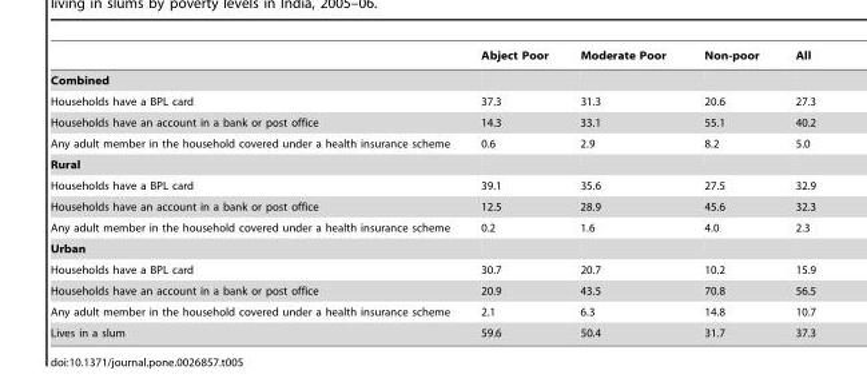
<table><thead><tr><td></td><td>Abject Poor</td><td>Moderate Poor</td><td>Non-poor</td><td>All</td></tr></thead><tbody><tr><td colspan="5">Combined</td></tr><tr><td>Households have a BPL card</td><td>37.3</td><td>31.3</td><td>20.6</td><td>27.3</td></tr><tr><td>Households have an account in a bank or post office</td><td>14.3</td><td>33.1</td><td>55.1</td><td>40.2</td></tr><tr><td>Any adult member in the household covered under a health insurance scheme</td><td>0.6</td><td>2.9</td><td>8.2</td><td>5.0</td></tr><tr><td colspan="5">Rural</td></tr><tr><td>Households have a BPL card</td><td>39.1</td><td>35.6</td><td>27.5</td><td>32.9</td></tr><tr><td>Households have an account in a bank or post office</td><td>12.5</td><td>28.9</td><td>45.6</td><td>32.3</td></tr><tr><td>Any adult member in the household covered under a health insurance scheme</td><td>0.2</td><td>1.6</td><td>4.0</td><td>2.3</td></tr><tr><td colspan="5">Urban</td></tr><tr><td>Households have a BPL card</td><td>30.7</td><td>20.7</td><td>10.2</td><td>15.9</td></tr><tr><td>Households have an account in a bank or post office</td><td>20.9</td><td>43.5</td><td>70.8</td><td>56.5</td></tr><tr><td>Any adult member in the household covered under a health insurance scheme</td><td>2.1</td><td>6.3</td><td>14.8</td><td>10.7</td></tr><tr><td>Lives in a slum</td><td>59.6</td><td>50.4</td><td>31.7</td><td>37.3</td></tr></tbody></table>